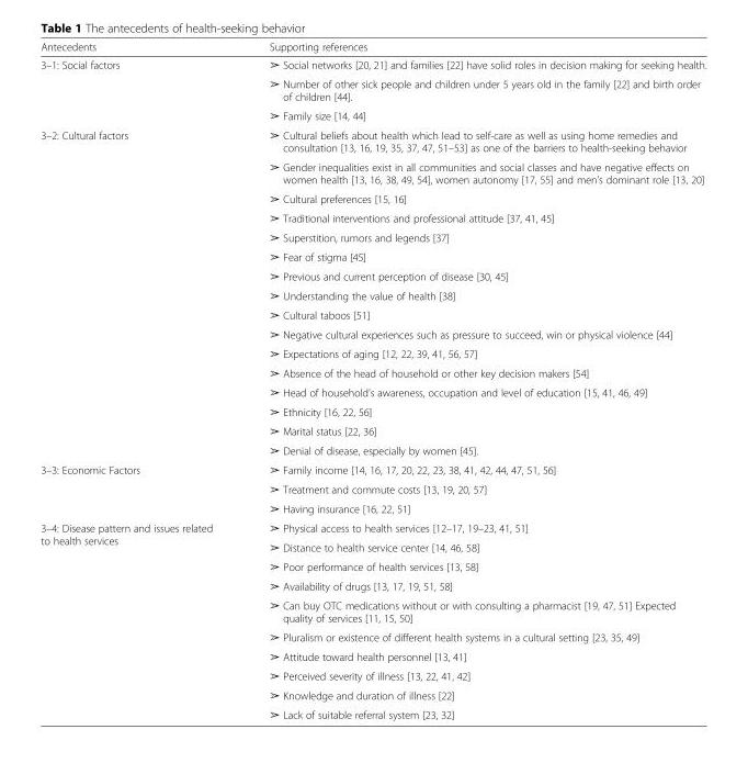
<table><thead><tr><td>Antecedents</td><td>Supporting references</td></tr></thead><tbody><tr><td rowspan="3">3–1: Social factors</td><td>➢ Social networks [20, 21] and families [22] have solid roles in decision making for seeking health.</td></tr><tr><td>➢ Number of other sick people and children under 5 years old in the family [22] and birth order of children [44].</td></tr><tr><td>➢ Family size [14, 44]</td></tr><tr><td rowspan="16">3–2: Cultural factors</td><td>➢ Cultural beliefs about health which lead to self-care as well as using home remedies and consultation [13, 16, 19, 35, 37, 47, 51–53] as one of the barriers to health-seeking behavior</td></tr><tr><td>➢ Gender inequalities exist in all communities and social classes and have negative effects on women health [13, 16, 38, 49, 54], women autonomy [17, 55] and men’s dominant role [13, 20]</td></tr><tr><td>➢ Cultural preferences [15, 16]</td></tr><tr><td>➢ Traditional interventions and professional attitude [37, 41, 45]</td></tr><tr><td>➢ Superstition, rumors and legends [37]</td></tr><tr><td>➢ Fear of stigma [45]</td></tr><tr><td>➢ Previous and current perception of disease [30, 45]</td></tr><tr><td>➢ Understanding the value of health [38]</td></tr><tr><td>➢ Cultural taboos [51]</td></tr><tr><td>➢ Negative cultural experiences such as pressure to succeed, win or physical violence [44]</td></tr><tr><td>➢ Expectations of aging [12, 22, 39, 41, 56, 57]</td></tr><tr><td>➢ Absence of the head of household or other key decision makers [54]</td></tr><tr><td>➢ Head of household’s awareness, occupation and level of education [15, 41, 46, 49]</td></tr><tr><td>➢ Ethnicity [16, 22, 56]</td></tr><tr><td>➢ Marital status [22, 36]</td></tr><tr><td>➢ Denial of disease, especially by women [45].</td></tr><tr><td rowspan="3">3–3: Economic Factors</td><td>➢ Family income [14, 16, 17, 20, 22, 23, 38, 41, 42, 44, 47, 51, 56]</td></tr><tr><td>➢ Treatment and commute costs [13, 19, 20, 57]</td></tr><tr><td>➢ Having insurance [16, 22, 51]</td></tr><tr><td rowspan="10">3–4: Disease pattern and issues related to health services</td><td>➢ Physical access to health services [12–17, 19–23, 41, 51]</td></tr><tr><td>➢ Distance to health service center [14, 46, 58]</td></tr><tr><td>➢ Poor performance of health services [13, 58]</td></tr><tr><td>➢ Availability of drugs [13, 17, 19, 51, 58]</td></tr><tr><td>➢ Can buy OTC medications without or with consulting a pharmacist [19, 47, 51] Expected quality of services [11, 15, 50]</td></tr><tr><td>➢ Pluralism or existence of different health systems in a cultural setting [23, 35, 49]</td></tr><tr><td>➢ Attitude toward health personnel [13, 41]</td></tr><tr><td>➢ Perceived severity of illness [13, 22, 41, 42]</td></tr><tr><td>➢ Knowledge and duration of illness [22]</td></tr><tr><td>➢ Lack of suitable referral system [23, 32]</td></tr></tbody></table>